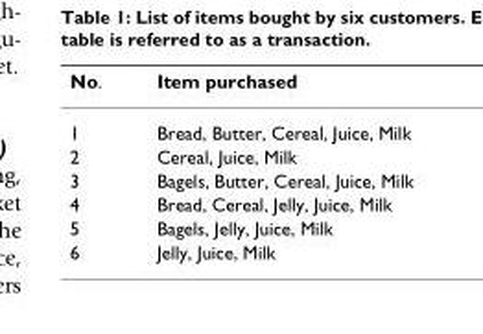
<table><thead><tr><td>No.</td><td>Item purchased</td></tr></thead><tbody><tr><td>1</td><td>Bread, Butter, Cereal, Juice, Milk</td></tr><tr><td>2</td><td>Cereal, Juice, Milk</td></tr><tr><td>3</td><td>Bagels, Butter, Cereal, Juice, Milk</td></tr><tr><td>4</td><td>Bread, Cereal, Jelly, Juice, Milk</td></tr><tr><td>5</td><td>Bagels, Jelly, Juice, Milk</td></tr><tr><td>6</td><td>Jelly, Juice, Milk</td></tr></tbody></table>